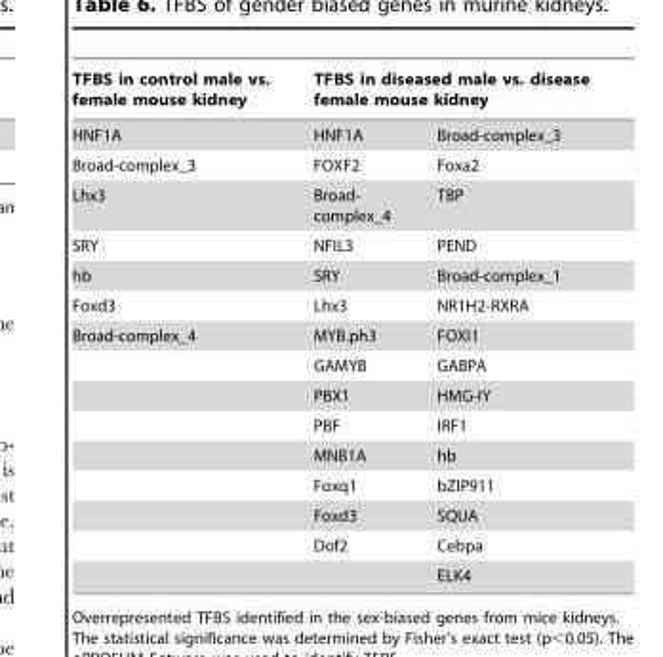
<table><thead><tr><td rowspan="2">TFBS in control male vs. female mouse kidney HNF1A</td><td colspan="2">TFBS in diseased male vs. disease female mouse kidney</td></tr><tr><td>HNF1A</td><td>Broad-complex_3</td></tr></thead><tbody><tr><td>Broad-complex_3</td><td>FOXF2</td><td>Foxa2</td></tr><tr><td>Lhx3</td><td>Broad- complex_4</td><td>TBP</td></tr><tr><td>SRY</td><td>NFIL3</td><td>PEND</td></tr><tr><td>hb</td><td>SRY</td><td>Broad-complex_1</td></tr><tr><td>Foxd3</td><td>Lhx3</td><td>NR1H2-RXRA</td></tr><tr><td rowspan="9">Broad-complex_4</td><td>MYB.ph3</td><td>FOXI1</td></tr><tr><td>GAMYB</td><td>GABPA</td></tr><tr><td>PBX1</td><td>HMG-IY</td></tr><tr><td>PBF</td><td>IRF1</td></tr><tr><td>MNB1A</td><td>hb</td></tr><tr><td>Foxq1</td><td>bZIP911</td></tr><tr><td>Foxd3</td><td>SQUA</td></tr><tr><td>Dof2</td><td>Cebpa</td></tr><tr><td></td><td>ELK4</td></tr></tbody></table>